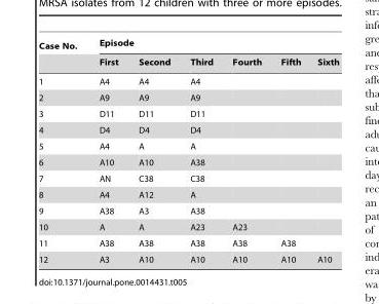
<table><thead><tr><td rowspan="2">Case No.</td><td colspan="6">Episode</td></tr><tr><td>First</td><td>Second</td><td>Third</td><td>Fourth</td><td>Fifth</td><td>Sixth</td></tr></thead><tbody><tr><td>1</td><td>A4</td><td>A4</td><td>A4</td><td></td><td></td><td></td></tr><tr><td>2</td><td>A9</td><td>A9</td><td>A9</td><td></td><td></td><td></td></tr><tr><td>3</td><td>D11</td><td>D11</td><td>D11</td><td></td><td></td><td></td></tr><tr><td>4</td><td>D4</td><td>D4</td><td>D4</td><td></td><td></td><td></td></tr><tr><td>5</td><td>A4</td><td>A</td><td>A</td><td></td><td></td><td></td></tr><tr><td>6</td><td>A10</td><td>A10</td><td>A38</td><td></td><td></td><td></td></tr><tr><td>7</td><td>AN</td><td>C38</td><td>C38</td><td></td><td></td><td></td></tr><tr><td>8</td><td>A4</td><td>A12</td><td>A</td><td></td><td></td><td></td></tr><tr><td>9</td><td>A38</td><td>A3</td><td>A38</td><td></td><td></td><td></td></tr><tr><td>10</td><td>A</td><td>A</td><td>A23</td><td>A23</td><td></td><td></td></tr><tr><td>11</td><td>A38</td><td>A38</td><td>A38</td><td>A38</td><td>A38</td><td></td></tr><tr><td>12</td><td>A3</td><td>A10</td><td>A10</td><td>A10</td><td>A10</td><td>A10</td></tr></tbody></table>